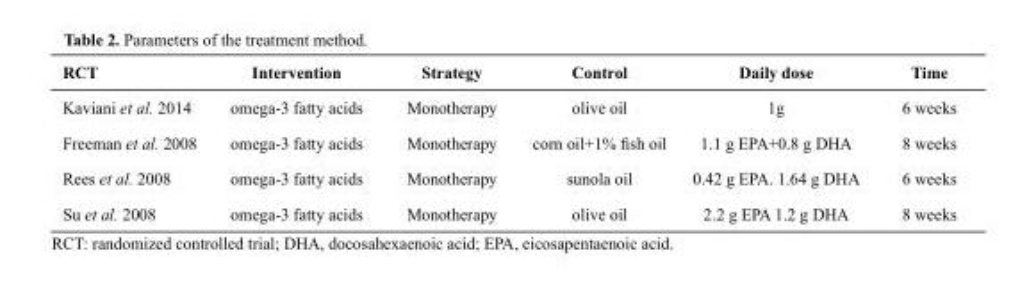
<table><thead><tr><td>RCT</td><td>Intervention</td><td>Strategy</td><td>Control</td><td>Daily dose</td><td>Time</td></tr></thead><tbody><tr><td>Kaviani et al. 2014</td><td>omega-3 fatty acids</td><td>Monotherapy</td><td>olive oil</td><td>1g</td><td>6 weeks</td></tr><tr><td>Freeman et al. 2008</td><td>omega-3 fatty acids</td><td>Monotherapy</td><td>corn oil+1% fish oil</td><td>1.1 g EPA+0.8 g DHA</td><td>8 weeks</td></tr><tr><td>Rees et al. 2008</td><td>omega-3 fatty acids</td><td>Monotherapy</td><td>sunola oil</td><td>0.42 g EPA. 1.64 g DHA</td><td>6 weeks</td></tr><tr><td>Su et al. 2008</td><td>omega-3 fatty acids</td><td>Monotherapy</td><td>olive oil</td><td>2.2 g EPA 1.2 g DHA</td><td>8 weeks</td></tr></tbody></table>